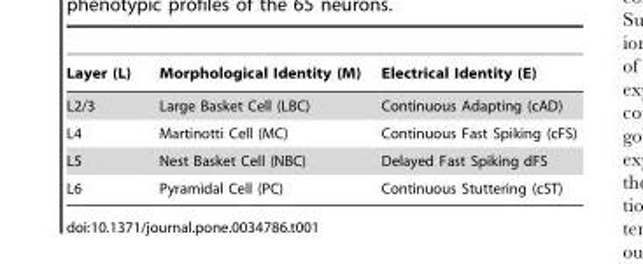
<table><thead><tr><td>Layer (L)</td><td>Morphological Identity (M)</td><td>Electrical Identity (E)</td></tr></thead><tbody><tr><td>L2/3</td><td>Large Basket Cell (LBC)</td><td>Continuous Adapting (cAD)</td></tr><tr><td>L4</td><td>Martinotti Cell (MC)</td><td>Continuous Fast Spiking (cFS)</td></tr><tr><td>L5</td><td>Nest Basket Cell (NBC)</td><td>Delayed Fast Spiking dFS</td></tr><tr><td>L6</td><td>Pyramidal Cell (PC)</td><td>Continuous Stuttering (cST)</td></tr></tbody></table>